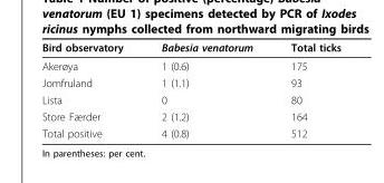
<table><thead><tr><td>Bird observatory</td><td>Babesia venatorum</td><td>Total ticks</td></tr></thead><tbody><tr><td>Akerøya</td><td>1 (0.6)</td><td>175</td></tr><tr><td>Jomfruland</td><td>1 (1.1)</td><td>93</td></tr><tr><td>Lista</td><td>0</td><td>80</td></tr><tr><td>Store Færder</td><td>2 (1.2)</td><td>164</td></tr><tr><td>Total positive</td><td>4 (0.8)</td><td>512</td></tr></tbody></table>